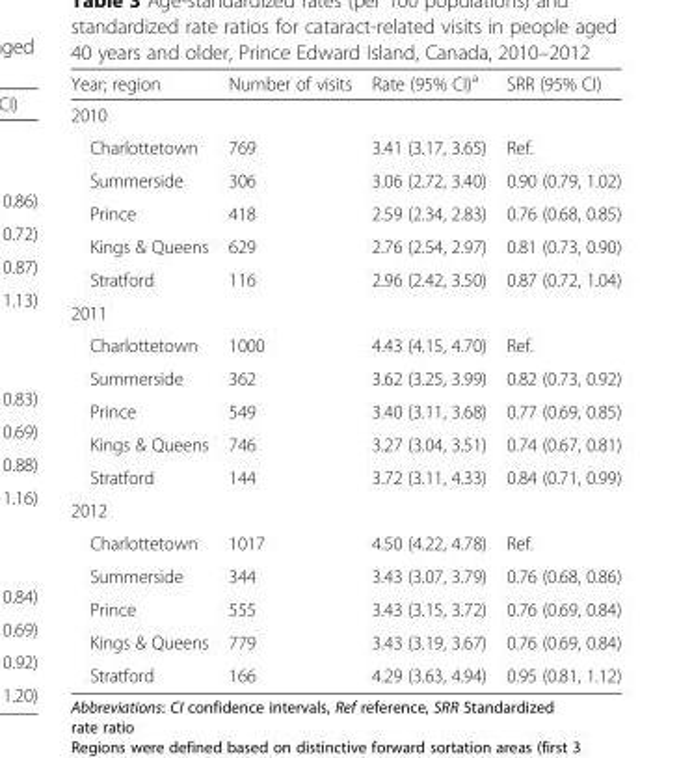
<table><thead><tr><td>Year; region</td><td>Number of visits</td><td>Rate (95% CI)<sup>a</sup></td><td>SRR (95% CI)</td></tr></thead><tbody><tr><td colspan="4">2010</td></tr><tr><td>Charlottetown</td><td>769</td><td>3.41 (3.17, 3.65)</td><td>Ref.</td></tr><tr><td>Summerside</td><td>306</td><td>3.06 (2.72, 3.40)</td><td>0.90 (0.79, 1.02)</td></tr><tr><td>Prince</td><td>418</td><td>2.59 (2.34, 2.83)</td><td>0.76 (0.68, 0.85)</td></tr><tr><td>Kings &amp; Queens</td><td>629</td><td>2.76 (2.54, 2.97)</td><td>0.81 (0.73, 0.90)</td></tr><tr><td>Stratford</td><td>116</td><td>2.96 (2.42, 3.50)</td><td>0.87 (0.72, 1.04)</td></tr><tr><td colspan="4">2011</td></tr><tr><td>Charlottetown</td><td>1000</td><td>4.43 (4.15, 4.70)</td><td>Ref.</td></tr><tr><td>Summerside</td><td>362</td><td>3.62 (3.25, 3.99)</td><td>0.82 (0.73, 0.92)</td></tr><tr><td>Prince</td><td>549</td><td>3.40 (3.11, 3.68)</td><td>0.77 (0.69, 0.85)</td></tr><tr><td>Kings &amp; Queens</td><td>746</td><td>3.27 (3.04, 3.51)</td><td>0.74 (0.67, 0.81)</td></tr><tr><td>Stratford</td><td>144</td><td>3.72 (3.11, 4.33)</td><td>0.84 (0.71, 0.99)</td></tr><tr><td colspan="4">2012</td></tr><tr><td>Charlottetown</td><td>1017</td><td>4.50 (4.22, 4.78)</td><td>Ref.</td></tr><tr><td>Summerside</td><td>344</td><td>3.43 (3.07, 3.79)</td><td>0.76 (0.68, 0.86)</td></tr><tr><td>Prince</td><td>555</td><td>3.43 (3.15, 3.72)</td><td>0.76 (0.69, 0.84)</td></tr><tr><td>Kings &amp; Queens</td><td>779</td><td>3.43 (3.19, 3.67)</td><td>0.76 (0.69, 0.84)</td></tr><tr><td>Stratford</td><td>166</td><td>4.29 (3.63, 4.94)</td><td>0.95 (0.81, 1.12)</td></tr></tbody></table>